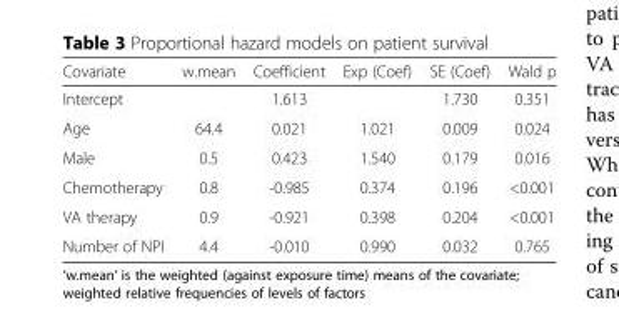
<table><thead><tr><td>Covariate</td><td>w.mean</td><td>Coefficient</td><td>Exp (Coef)</td><td>SE (Coef)</td><td>Wald p</td></tr></thead><tbody><tr><td>Intercept</td><td></td><td>1.613</td><td></td><td>1.730</td><td>0.351</td></tr><tr><td>Age</td><td>64.4</td><td>0.021</td><td>1.021</td><td>0.009</td><td>0.024</td></tr><tr><td>Male</td><td>0.5</td><td>0.423</td><td>1.540</td><td>0.179</td><td>0.016</td></tr><tr><td>Chemotherapy</td><td>0.8</td><td>-0.985</td><td>0.374</td><td>0.196</td><td>&lt;0.001</td></tr><tr><td>VA therapy</td><td>0.9</td><td>-0.921</td><td>0.398</td><td>0.204</td><td>&lt;0.001</td></tr><tr><td>Number of NPI</td><td>4.4</td><td>-0.010</td><td>0.990</td><td>0.032</td><td>0.765</td></tr></tbody></table>